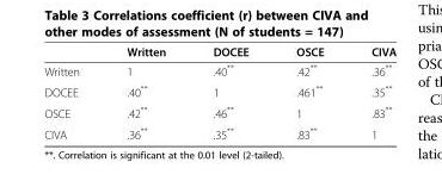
<table><thead><tr><td></td><td>Written</td><td>DOCEE</td><td>OSCE</td><td>CIVA</td></tr></thead><tbody><tr><td>Written</td><td>1</td><td>.40**</td><td>.42**</td><td>.36**</td></tr><tr><td>DOCEE</td><td>.40**</td><td>1</td><td>.461**</td><td>.35**</td></tr><tr><td>OSCE</td><td>.42**</td><td>.46**</td><td>1</td><td>.83**</td></tr><tr><td>CIVA</td><td>.36**</td><td>.35**</td><td>.83**</td><td>1</td></tr></tbody></table>